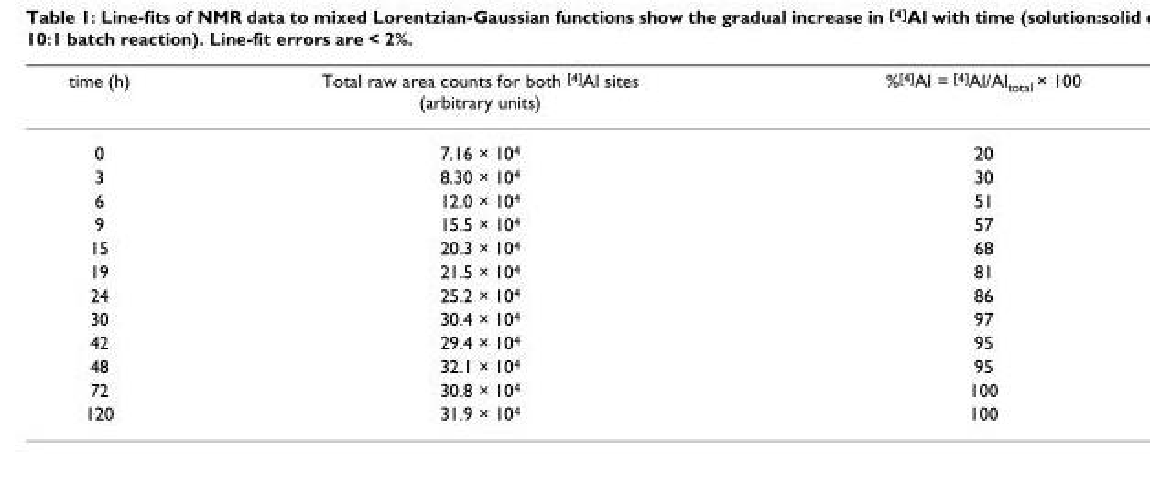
<table><thead><tr><td>time (h)</td><td>Total raw area counts for both <sup>[4]</sup>Al sites (arbitrary units)</td><td>%<sup>[4]</sup>Al = <sup>[4]</sup>Al/Al<sub>total</sub> × 100</td></tr></thead><tbody><tr><td>0</td><td>7.16 × 10<sup>4</sup></td><td>20</td></tr><tr><td>3</td><td>8.30 × 10<sup>4</sup></td><td>30</td></tr><tr><td>6</td><td>12.0 × 10<sup>4</sup></td><td>51</td></tr><tr><td>9</td><td>15.5 × 10<sup>4</sup></td><td>57</td></tr><tr><td>15</td><td>20.3 × 10<sup>4</sup></td><td>68</td></tr><tr><td>19</td><td>21.5 × 10<sup>4</sup></td><td>81</td></tr><tr><td>24</td><td>25.2 × 10<sup>4</sup></td><td>86</td></tr><tr><td>30</td><td>30.4 × 10<sup>4</sup></td><td>97</td></tr><tr><td>42</td><td>29.4 × 10<sup>4</sup></td><td>95</td></tr><tr><td>48</td><td>32.1 × 10<sup>4</sup></td><td>95</td></tr><tr><td>72</td><td>30.8 × 10<sup>4</sup></td><td>100</td></tr><tr><td>120</td><td>31.9 × 10<sup>4</sup></td><td>100</td></tr></tbody></table>